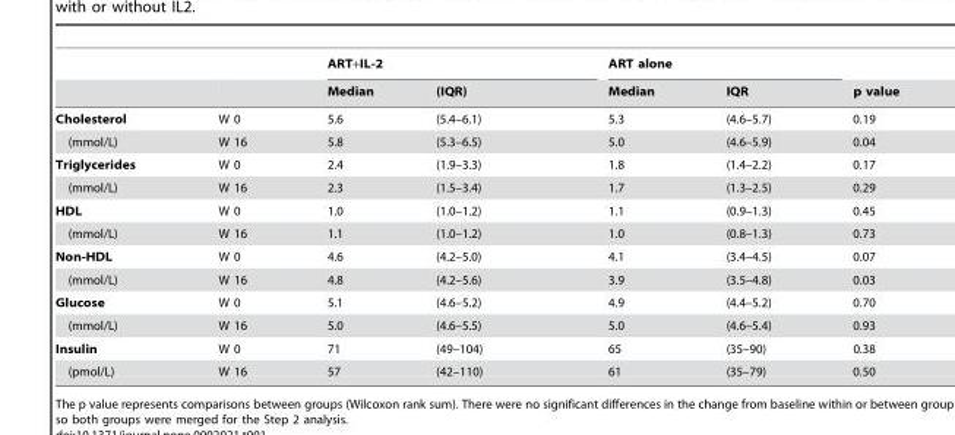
<table><thead><tr><td rowspan="2"></td><td rowspan="2"></td><td colspan="2">ART+IL-2</td><td colspan="2">ART alone</td><td rowspan="2">p value</td></tr><tr><td>Median</td><td>(IQR)</td><td>Median</td><td>IQR</td></tr></thead><tbody><tr><td>Cholesterol</td><td>W 0</td><td>5.6</td><td>(5.4–6.1)</td><td>5.3</td><td>(4.6–5.7)</td><td>0.19</td></tr><tr><td>(mmol/L)</td><td>W 16</td><td>5.8</td><td>(5.3–6.5)</td><td>5.0</td><td>(4.6–5.9)</td><td>0.04</td></tr><tr><td>Triglycerides</td><td>W 0</td><td>2.4</td><td>(1.9–3.3)</td><td>1.8</td><td>(1.4–2.2)</td><td>0.17</td></tr><tr><td>(mmol/L)</td><td>W 16</td><td>2.3</td><td>(1.5–3.4)</td><td>1.7</td><td>(1.3–2.5)</td><td>0.29</td></tr><tr><td>HDL</td><td>W 0</td><td>1.0</td><td>(1.0–1.2)</td><td>1.1</td><td>(0.9–1.3)</td><td>0.45</td></tr><tr><td>(mmol/L)</td><td>W 16</td><td>1.1</td><td>(1.0–1.2)</td><td>1.0</td><td>(0.8–1.3)</td><td>0.73</td></tr><tr><td>Non-HDL</td><td>W 0</td><td>4.6</td><td>(4.2–5.0)</td><td>4.1</td><td>(3.4–4.5)</td><td>0.07</td></tr><tr><td>(mmol/L)</td><td>W 16</td><td>4.8</td><td>(4.2–5.6)</td><td>3.9</td><td>(3.5–4.8)</td><td>0.03</td></tr><tr><td>Glucose</td><td>W 0</td><td>5.1</td><td>(4.6–5.2)</td><td>4.9</td><td>(4.4–5.2)</td><td>0.70</td></tr><tr><td>(mmol/L)</td><td>W 16</td><td>5.0</td><td>(4.6–5.5)</td><td>5.0</td><td>(4.6–5.4)</td><td>0.93</td></tr><tr><td>Insulin</td><td>W 0</td><td>71</td><td>(49–104)</td><td>65</td><td>(35–90)</td><td>0.38</td></tr><tr><td>(pmol/L)</td><td>W 16</td><td>57</td><td>(42–110)</td><td>61</td><td>(35–79)</td><td>0.50</td></tr></tbody></table>